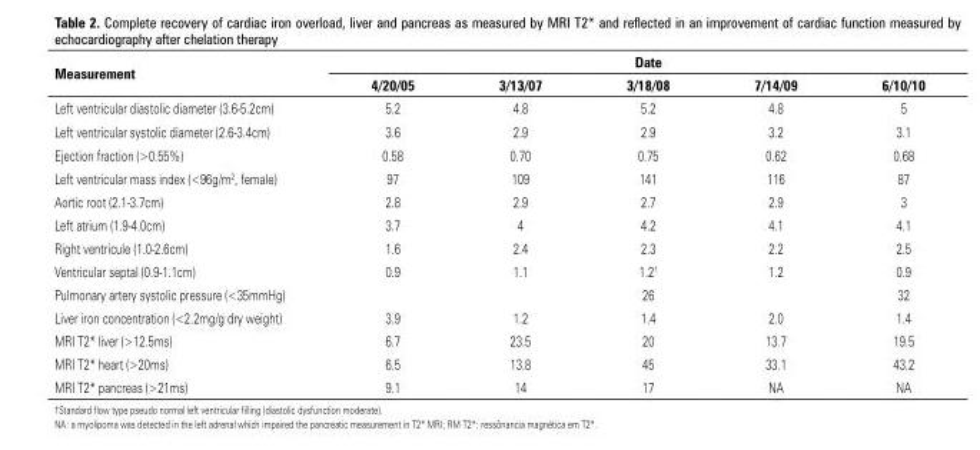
<table><thead><tr><td rowspan="2">Measurement</td><td colspan="5">Date</td></tr><tr><td>4/20/05</td><td>3/13/07</td><td>3/18/08</td><td>7/14/09</td><td>6/10/10</td></tr></thead><tbody><tr><td>Left ventricular diastolic diameter (3.6-5.2cm)</td><td>5.2</td><td>4.8</td><td>5.2</td><td>4.8</td><td>5</td></tr><tr><td>Left ventricular systolic diameter (2.6-3.4cm)</td><td>3.6</td><td>2.9</td><td>2.9</td><td>3.2</td><td>3.1</td></tr><tr><td>Ejection fraction (&gt;0.55%)</td><td>0.58</td><td>0.70</td><td>0.75</td><td>0.62</td><td>0.68</td></tr><tr><td>Left ventricular mass index (&lt;96g/m<sup>2</sup>, female)</td><td>97</td><td>109</td><td>141</td><td>116</td><td>87</td></tr><tr><td>Aortic root (2.1-3.7cm)</td><td>2.8</td><td>2.9</td><td>2.7</td><td>2.9</td><td>3</td></tr><tr><td>Left atrium (1.9-4.0cm)</td><td>3.7</td><td>4</td><td>4.2</td><td>4.1</td><td>4.1</td></tr><tr><td>Right ventricule (1.0-2.6cm)</td><td>1.6</td><td>2.4</td><td>2.3</td><td>2.2</td><td>2.5</td></tr><tr><td>Ventricular septal (0.9-1.1cm)</td><td>0.9</td><td>1.1</td><td>1.2†</td><td>1.2</td><td>0.9</td></tr><tr><td>Pulmonary artery systolic pressure (&lt;35mmHg)</td><td></td><td></td><td>26</td><td></td><td>32</td></tr><tr><td>Liver iron concentration (&lt;2.2mg/g dry weight)</td><td>3.9</td><td>1.2</td><td>1.4</td><td>2.0</td><td>1.4</td></tr><tr><td>MRI T2* liver (&gt;12.5ms)</td><td>6.7</td><td>23.5</td><td>20</td><td>13.7</td><td>19.5</td></tr><tr><td>MRI T2* heart (&gt;20ms)</td><td>6.5</td><td>13.8</td><td>45</td><td>33.1</td><td>43.2</td></tr><tr><td>MRI T2* pancreas (&gt;21ms)</td><td>9.1</td><td>14</td><td>17</td><td>NA</td><td>NA</td></tr></tbody></table>